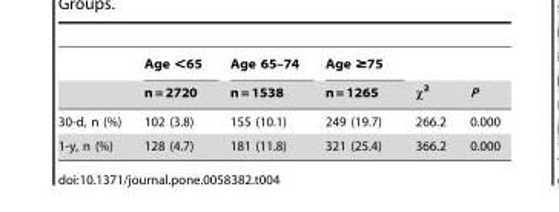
<table><thead><tr><td rowspan="2"></td><td rowspan="2">Age &lt;65 n = 2720</td><td rowspan="2">Age 65–74 n = 1538</td><td rowspan="2">Age ≥75 n = 1265</td><td rowspan="2">x2</td><td rowspan="2">P</td></tr><tr></tr></thead><tbody><tr><td>30-d, n (%)</td><td>102 (3.8)</td><td>155 (10.1)</td><td>249 (19.7)</td><td>266.2</td><td>0.000</td></tr><tr><td>1-y, n (%)</td><td>128 (4.7)</td><td>181 (11.8)</td><td>321 (25.4)</td><td>366.2</td><td>0.000</td></tr></tbody></table>